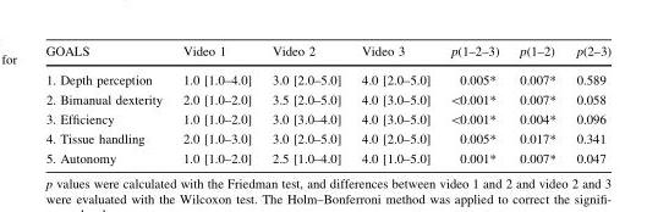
<table><thead><tr><td>GOALS</td><td>Video 1</td><td>Video 2</td><td>Video 3</td><td>p(1–2–3)</td><td>p(1–2)</td><td>p(2–3)</td></tr></thead><tbody><tr><td>1. Depth perception</td><td>1.0 [1.0–4.0]</td><td>3.0 [2.0–5.0]</td><td>4.0 [2.0–5.0]</td><td>0.005*</td><td>0.007*</td><td>0.589</td></tr><tr><td>2. Bimanual dexterity</td><td>2.0 [1.0–2.0]</td><td>3.5 [2.0–5.0]</td><td>4.0 [3.0–5.0]</td><td>&lt;0.001*</td><td>0.007*</td><td>0.058</td></tr><tr><td>3. Efficiency</td><td>1.0 [1.0–2.0]</td><td>3.0 [3.0–4.0]</td><td>4.0 [3.0–5.0]</td><td>&lt;0.001*</td><td>0.004*</td><td>0.096</td></tr><tr><td>4. Tissue handling</td><td>2.0 [1.0–3.0]</td><td>3.0 [2.0–5.0]</td><td>4.0 [2.0–5.0]</td><td>0.005*</td><td>0.017*</td><td>0.341</td></tr><tr><td>5. Autonomy</td><td>1.0 [1.0–2.0]</td><td>2.5 [1.0–4.0]</td><td>4.0 [1.0–5.0]</td><td>0.001*</td><td>0.007*</td><td>0.047</td></tr></tbody></table>